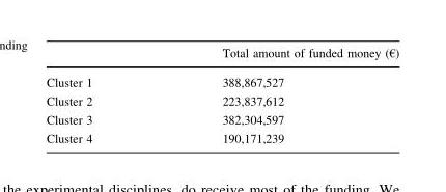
<table><thead><tr><td></td><td>Total amount of funded money (€)</td></tr></thead><tbody><tr><td>Cluster 1</td><td>388,867,527</td></tr><tr><td>Cluster 2</td><td>223,837,612</td></tr><tr><td>Cluster 3</td><td>382,304,597</td></tr><tr><td>Cluster 4</td><td>190,171,239</td></tr></tbody></table>